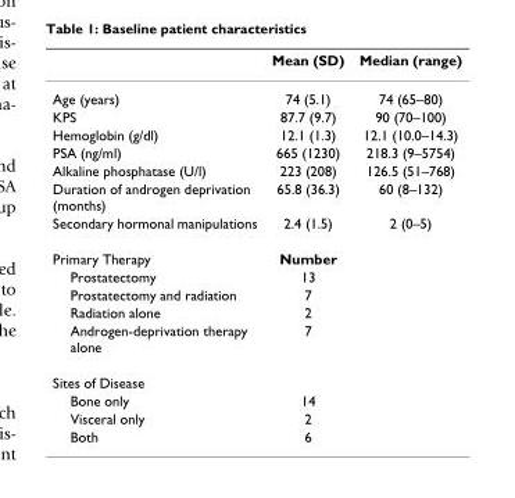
<table><thead><tr><td></td><td>Mean (SD)</td><td>Median (range)</td></tr></thead><tbody><tr><td>Age (years)</td><td>74 (5.1)</td><td>74 (65–80)</td></tr><tr><td>KPS</td><td>87.7 (9.7)</td><td>90 (70–100)</td></tr><tr><td>Hemoglobin (g/dl)</td><td>12.1 (1.3)</td><td>12.1 (10.0–14.3)</td></tr><tr><td>PSA (ng/ml)</td><td>665 (1230)</td><td>218.3 (9–5754)</td></tr><tr><td>Alkaline phosphatase (U/l)</td><td>223 (208)</td><td>126.5 (51–768)</td></tr><tr><td>Duration of androgen deprivation (months)</td><td>65.8 (36.3)</td><td>60 (8–132)</td></tr><tr><td>Secondary hormonal manipulations</td><td>2.4 (1.5)</td><td>2 (0–5)</td></tr><tr><td>Primary Therapy</td><td>Number</td><td></td></tr><tr><td>Prostatectomy</td><td>13</td><td></td></tr><tr><td>Prostatectomy and radiation</td><td>7</td><td></td></tr><tr><td>Radiation alone</td><td>2</td><td></td></tr><tr><td>Androgen-deprivation therapy alone</td><td>7</td><td></td></tr><tr><td colspan="3">Sites of Disease</td></tr><tr><td>Bone only</td><td>14</td><td></td></tr><tr><td>Visceral only</td><td>2</td><td></td></tr><tr><td>Both</td><td>6</td><td></td></tr></tbody></table>